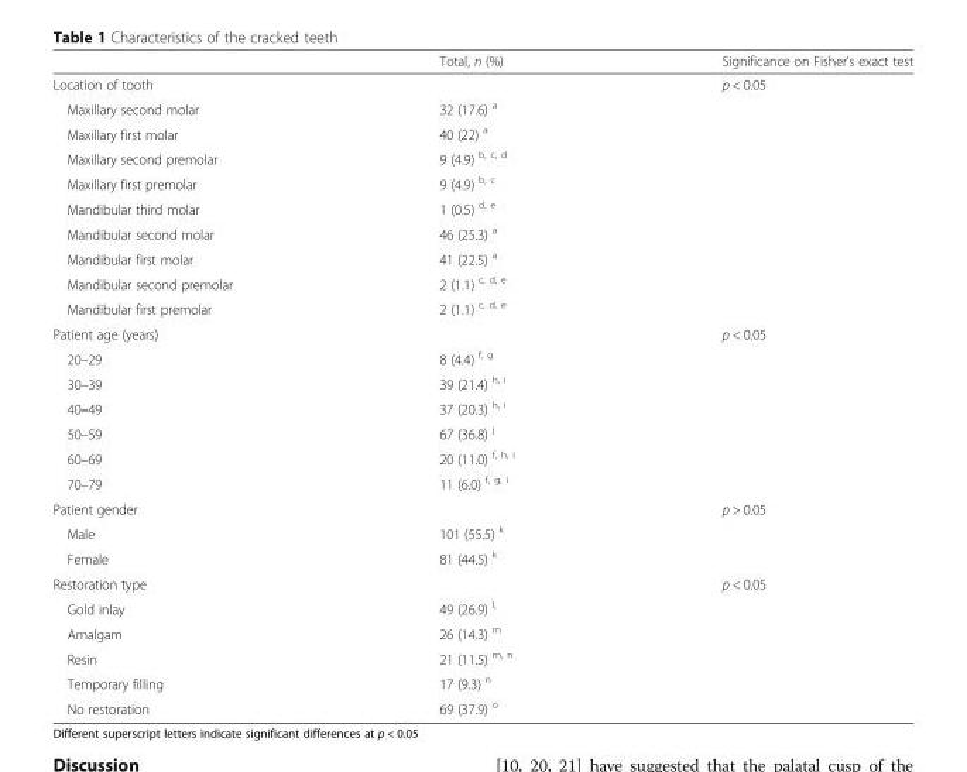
<table><thead><tr><td></td><td>Total, n (%)</td><td>Significance on Fisher’s exact test</td></tr></thead><tbody><tr><td colspan="2">Location of tooth</td><td>p &lt; 0.05</td></tr><tr><td>Maxillary second molar</td><td>32 (17.6) <sup>a</sup></td><td></td></tr><tr><td>Maxillary first molar</td><td>40 (22) <sup>a</sup></td><td></td></tr><tr><td>Maxillary second premolar</td><td>9 (4.9) <sup>b, c, d</sup></td><td></td></tr><tr><td>Maxillary first premolar</td><td>9 (4.9) <sup>b, c</sup></td><td></td></tr><tr><td>Mandibular third molar</td><td>1 (0.5) <sup>d, e</sup></td><td></td></tr><tr><td>Mandibular second molar</td><td>46 (25.3) <sup>a</sup></td><td></td></tr><tr><td>Mandibular first molar</td><td>41 (22.5) <sup>a</sup></td><td></td></tr><tr><td>Mandibular second premolar</td><td>2 (1.1) <sup>c, d, e</sup></td><td></td></tr><tr><td>Mandibular first premolar</td><td>2 (1.1) <sup>c, d, e</sup></td><td></td></tr><tr><td colspan="2">Patient age (years)</td><td>p &lt; 0.05</td></tr><tr><td>20–29</td><td>8 (4.4) <sup>f, g</sup></td><td></td></tr><tr><td>30–39</td><td>39 (21.4) <sup>h, i</sup></td><td></td></tr><tr><td>40–49</td><td>37 (20.3) <sup>h, i</sup></td><td></td></tr><tr><td>50–59</td><td>67 (36.8) <sup>j</sup></td><td></td></tr><tr><td>60–69</td><td>20 (11.0) <sup>f, h, i</sup></td><td></td></tr><tr><td>70–79</td><td>11 (6.0) <sup>f, g, i</sup></td><td></td></tr><tr><td colspan="2">Patient gender</td><td>p &gt; 0.05</td></tr><tr><td>Male</td><td>101 (55.5) <sup>k</sup></td><td></td></tr><tr><td>Female</td><td>81 (44.5) <sup>k</sup></td><td></td></tr><tr><td colspan="2">Restoration type</td><td>p &lt; 0.05</td></tr><tr><td>Gold inlay</td><td>49 (26.9) <sup>l,</sup></td><td></td></tr><tr><td>Amalgam</td><td>26 (14.3) <sup>m</sup></td><td></td></tr><tr><td>Resin</td><td>21 (11.5) <sup>m, n</sup></td><td></td></tr><tr><td>Temporary filling</td><td>17 (9.3) <sup>n</sup></td><td></td></tr><tr><td>No restoration</td><td>69 (37.9) <sup>o</sup></td><td></td></tr></tbody></table>